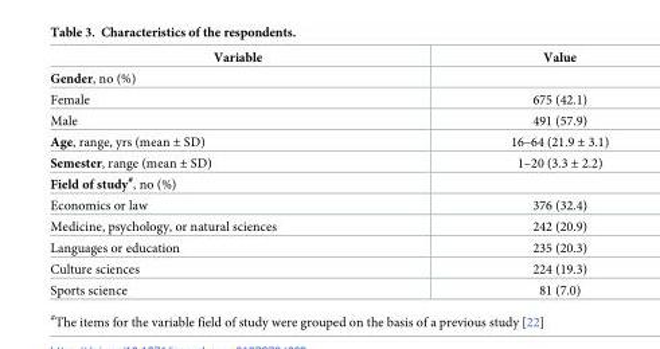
<table><thead><tr><td>Variable</td><td>Value</td></tr></thead><tbody><tr><td colspan="2">Gender, no (%)</td></tr><tr><td>Female</td><td>675 (42.1)</td></tr><tr><td>Male</td><td>491 (57.9)</td></tr><tr><td>Age, range, yrs (mean ± SD)</td><td>16–64 (21.9 ± 3.1)</td></tr><tr><td>Semester, range (mean ± SD)</td><td>1–20 (3.3 ± 2.2)</td></tr><tr><td colspan="2">Field of study<sup>#</sup>, no (%)</td></tr><tr><td>Economics or law</td><td>376 (32.4)</td></tr><tr><td>Medicine, psychology, or natural sciences</td><td>242 (20.9)</td></tr><tr><td>Languages or education</td><td>235 (20.3)</td></tr><tr><td>Culture sciences</td><td>224 (19.3)</td></tr><tr><td>Sports science</td><td>81 (7.0)</td></tr></tbody></table>